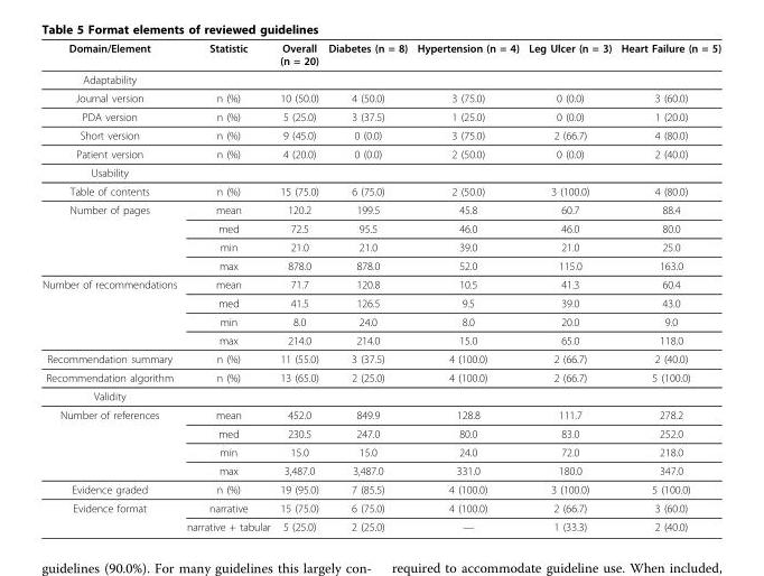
<table><thead><tr><td>Domain/Element</td><td>Statistic</td><td>Overall (n = 20)</td><td>Diabetes (n = 8)</td><td>Hypertension (n = 4)</td><td>Leg Ulcer (n = 3)</td><td>Heart Failure (n = 5)</td></tr></thead><tbody><tr><td colspan="7">Adaptability</td></tr><tr><td>Journal version</td><td>n (%)</td><td>10 (50.0)</td><td>4 (50.0)</td><td>3 (75.0)</td><td>0 (0.0)</td><td>3 (60.0)</td></tr><tr><td>PDA version</td><td>n (%)</td><td>5 (25.0)</td><td>3 (37.5)</td><td>1 (25.0)</td><td>0 (0.0)</td><td>1 (20.0)</td></tr><tr><td>Short version</td><td>n (%)</td><td>9 (45.0)</td><td>0 (0.0)</td><td>3 (75.0)</td><td>2 (66.7)</td><td>4 (80.0)</td></tr><tr><td>Patient version</td><td>n (%)</td><td>4 (20.0)</td><td>0 (0.0)</td><td>2 (50.0)</td><td>0 (0.0)</td><td>2 (40.0)</td></tr><tr><td colspan="7">Usability</td></tr><tr><td>Table of contents</td><td>n (%)</td><td>15 (75.0)</td><td>6 (75.0)</td><td>2 (50.0)</td><td>3 (100.0)</td><td>4 (80.0)</td></tr><tr><td rowspan="4">Number of pages</td><td>mean</td><td>120.2</td><td>199.5</td><td>45.8</td><td>60.7</td><td>88.4</td></tr><tr><td>med</td><td>72.5</td><td>95.5</td><td>46.0</td><td>46.0</td><td>80.0</td></tr><tr><td>min</td><td>21.0</td><td>21.0</td><td>39.0</td><td>21.0</td><td>25.0</td></tr><tr><td>max</td><td>878.0</td><td>878.0</td><td>52.0</td><td>115.0</td><td>163.0</td></tr><tr><td rowspan="4">Number of recommendations</td><td>mean</td><td>71.7</td><td>120.8</td><td>10.5</td><td>41.3</td><td>60.4</td></tr><tr><td>med</td><td>41.5</td><td>126.5</td><td>9.5</td><td>39.0</td><td>43.0</td></tr><tr><td>min</td><td>8.0</td><td>24.0</td><td>8.0</td><td>20.0</td><td>9.0</td></tr><tr><td>max</td><td>214.0</td><td>214.0</td><td>15.0</td><td>65.0</td><td>118.0</td></tr><tr><td>Recommendation summary</td><td>n (%)</td><td>11 (55.0)</td><td>3 (37.5)</td><td>4 (100.0)</td><td>2 (66.7)</td><td>2 (40.0)</td></tr><tr><td>Recommendation algorithm</td><td>n (%)</td><td>13 (65.0)</td><td>2 (25.0)</td><td>4 (100.0)</td><td>2 (66.7)</td><td>5 (100.0)</td></tr><tr><td colspan="7">Validity</td></tr><tr><td rowspan="4">Number of references</td><td>mean</td><td>452.0</td><td>849.9</td><td>128.8</td><td>111.7</td><td>278.2</td></tr><tr><td>med</td><td>230.5</td><td>247.0</td><td>80.0</td><td>83.0</td><td>252.0</td></tr><tr><td>min</td><td>15.0</td><td>15.0</td><td>24.0</td><td>72.0</td><td>218.0</td></tr><tr><td>max</td><td>3,487.0</td><td>3,487.0</td><td>331.0</td><td>180.0</td><td>347.0</td></tr><tr><td>Evidence graded</td><td>n (%)</td><td>19 (95.0)</td><td>7 (85.5)</td><td>4 (100.0)</td><td>3 (100.0)</td><td>5 (100.0)</td></tr><tr><td rowspan="2">Evidence format</td><td>narrative</td><td>15 (75.0)</td><td>6 (75.0)</td><td>4 (100.0)</td><td>2 (66.7)</td><td>3 (60.0)</td></tr><tr><td>narrative + tabular</td><td>5 (25.0)</td><td>2 (25.0)</td><td>—</td><td>1 (33.3)</td><td>2 (40.0)</td></tr></tbody></table>